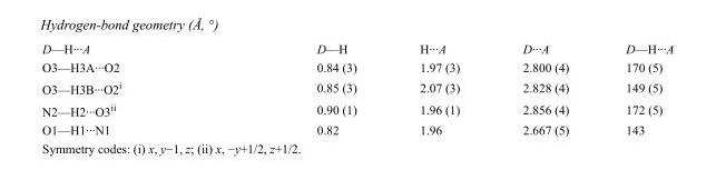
<table><tbody><tr><td>D—H···A</td><td>D—H</td><td>H···A</td><td>D···A</td><td>D—H···A</td></tr><tr><td>O3—H3A···O2</td><td>0.84 (3)</td><td>1.97 (3)</td><td>2.800 (4)</td><td>170 (5)</td></tr><tr><td>O3—H3B···O2<sup>i</sup></td><td>0.85 (3)</td><td>2.07 (3)</td><td>2.828 (4)</td><td>149 (5)</td></tr><tr><td>N2—H2···O3<sup>ii</sup></td><td>0.90 (1)</td><td>1.96 (1)</td><td>2.856 (4)</td><td>172 (5)</td></tr><tr><td>O1—H1···N1</td><td>0.82</td><td>1.96</td><td>2.667 (5)</td><td>143</td></tr></tbody></table>